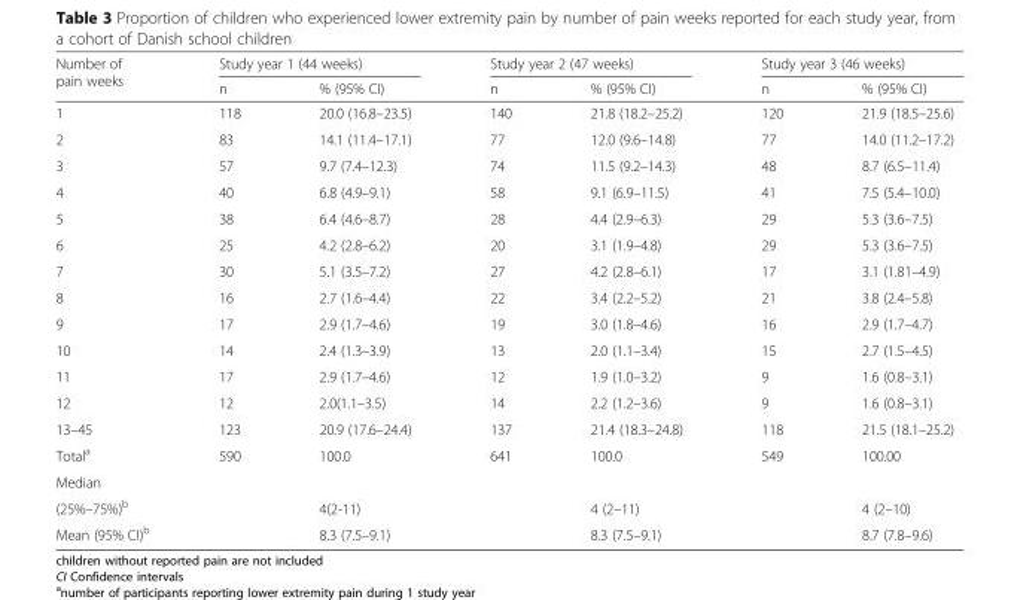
<table><thead><tr><td rowspan="2">Number of pain weeks</td><td colspan="2">Study year 1 (44 weeks)</td><td colspan="2">Study year 2 (47 weeks)</td><td colspan="2">Study year 3 (46 weeks)</td></tr><tr><td>n</td><td>% (95% CI)</td><td>n</td><td>% (95% CI)</td><td>n</td><td>% (95% CI)</td></tr></thead><tbody><tr><td>1</td><td>118</td><td>20.0 (16.8–23.5)</td><td>140</td><td>21.8 (18.2–25.2)</td><td>120</td><td>21.9 (18.5–25.6)</td></tr><tr><td>2</td><td>83</td><td>14.1 (11.4–17.1)</td><td>77</td><td>12.0 (9.6–14.8)</td><td>77</td><td>14.0 (11.2–17.2)</td></tr><tr><td>3</td><td>57</td><td>9.7 (7.4–12.3)</td><td>74</td><td>11.5 (9.2–14.3)</td><td>48</td><td>8.7 (6.5–11.4)</td></tr><tr><td>4</td><td>40</td><td>6.8 (4.9–9.1)</td><td>58</td><td>9.1 (6.9–11.5)</td><td>41</td><td>7.5 (5.4–10.0)</td></tr><tr><td>5</td><td>38</td><td>6.4 (4.6–8.7)</td><td>28</td><td>4.4 (2.9–6.3)</td><td>29</td><td>5.3 (3.6–7.5)</td></tr><tr><td>6</td><td>25</td><td>4.2 (2.8–6.2)</td><td>20</td><td>3.1 (1.9–4.8)</td><td>29</td><td>5.3 (3.6–7.5)</td></tr><tr><td>7</td><td>30</td><td>5.1 (3.5–7.2)</td><td>27</td><td>4.2 (2.8–6.1)</td><td>17</td><td>3.1 (1.81–4.9)</td></tr><tr><td>8</td><td>16</td><td>2.7 (1.6–4.4)</td><td>22</td><td>3.4 (2.2–5.2)</td><td>21</td><td>3.8 (2.4–5.8)</td></tr><tr><td>9</td><td>17</td><td>2.9 (1.7–4.6)</td><td>19</td><td>3.0 (1.8–4.6)</td><td>16</td><td>2.9 (1.7–4.7)</td></tr><tr><td>10</td><td>14</td><td>2.4 (1.3–3.9)</td><td>13</td><td>2.0 (1.1–3.4)</td><td>15</td><td>2.7 (1.5–4.5)</td></tr><tr><td>11</td><td>17</td><td>2.9 (1.7–4.6)</td><td>12</td><td>1.9 (1.0–3.2)</td><td>9</td><td>1.6 (0.8–3.1)</td></tr><tr><td>12</td><td>12</td><td>2.0(1.1–3.5)</td><td>14</td><td>2.2 (1.2–3.6)</td><td>9</td><td>1.6 (0.8–3.1)</td></tr><tr><td>13–45</td><td>123</td><td>20.9 (17.6–24.4)</td><td>137</td><td>21.4 (18.3–24.8)</td><td>118</td><td>21.5 (18.1–25.2)</td></tr><tr><td>Total<sup>a</sup></td><td>590</td><td>100.0</td><td>641</td><td>100.0</td><td>549</td><td>100.00</td></tr><tr><td colspan="7">Median</td></tr><tr><td>(25%–75%)<sup>b</sup></td><td></td><td>4(2-11)</td><td></td><td>4 (2–11)</td><td></td><td>4 (2–10)</td></tr><tr><td>Mean (95% CI)<sup>b</sup></td><td></td><td>8.3 (7.5–9.1)</td><td></td><td>8.3 (7.5–9.1)</td><td></td><td>8.7 (7.8–9.6)</td></tr></tbody></table>